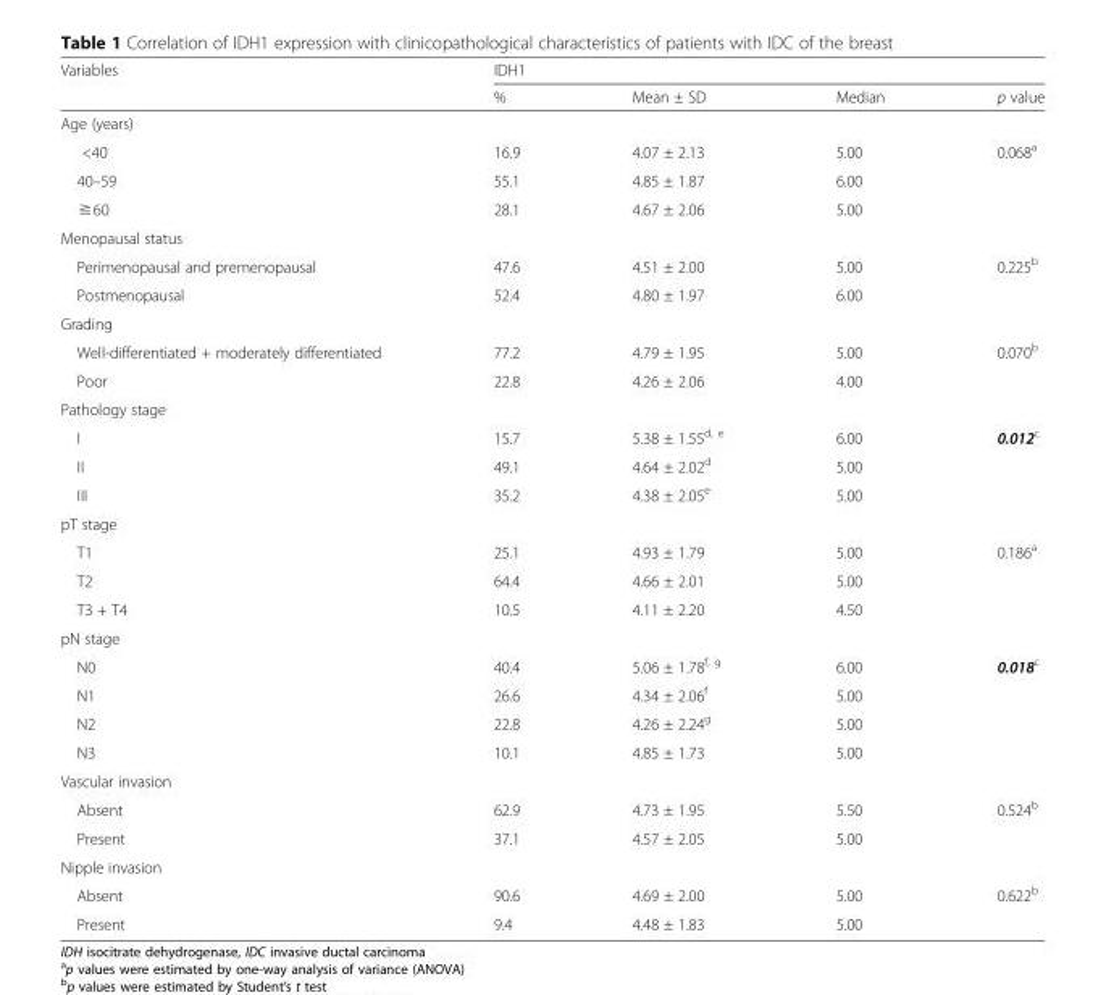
<table><thead><tr><td rowspan="2">Variables</td><td colspan="4">IDH1</td></tr><tr><td>%</td><td>Mean ± SD</td><td>Median</td><td>p value</td></tr></thead><tbody><tr><td colspan="5">Age (years)</td></tr><tr><td>&lt;40</td><td>16.9</td><td>4.07 ± 2.13</td><td>5.00</td><td>0.068<sup>a</sup></td></tr><tr><td>40–59</td><td>55.1</td><td>4.85 ± 1.87</td><td>6.00</td><td></td></tr><tr><td>≧60</td><td>28.1</td><td>4.67 ± 2.06</td><td>5.00</td><td></td></tr><tr><td colspan="5">Menopausal status</td></tr><tr><td>Perimenopausal and premenopausal</td><td>47.6</td><td>4.51 ± 2.00</td><td>5.00</td><td>0.225<sup>b</sup></td></tr><tr><td>Postmenopausal</td><td>52.4</td><td>4.80 ± 1.97</td><td>6.00</td><td></td></tr><tr><td colspan="5">Grading</td></tr><tr><td>Well-differentiated + moderately differentiated</td><td>77.2</td><td>4.79 ± 1.95</td><td>5.00</td><td>0.070<sup>b</sup></td></tr><tr><td>Poor</td><td>22.8</td><td>4.26 ± 2.06</td><td>4.00</td><td></td></tr><tr><td colspan="5">Pathology stage</td></tr><tr><td>I</td><td>15.7</td><td>5.38 ± 1.55<sup>d, e</sup></td><td>6.00</td><td>0.012<sup>c</sup></td></tr><tr><td>II</td><td>49.1</td><td>4.64 ± 2.02<sup>d</sup></td><td>5.00</td><td></td></tr><tr><td>III</td><td>35.2</td><td>4.38 ± 2.05<sup>e</sup></td><td>5.00</td><td></td></tr><tr><td colspan="5">pT stage</td></tr><tr><td>T1</td><td>25.1</td><td>4.93 ± 1.79</td><td>5.00</td><td>0.186<sup>a</sup></td></tr><tr><td>T2</td><td>64.4</td><td>4.66 ± 2.01</td><td>5.00</td><td></td></tr><tr><td>T3 + T4</td><td>10.5</td><td>4.11 ± 2.20</td><td>4.50</td><td></td></tr><tr><td colspan="5">pN stage</td></tr><tr><td>N0</td><td>40.4</td><td>5.06 ± 1.78<sup>f, g</sup></td><td>6.00</td><td>0.018<sup>c</sup></td></tr><tr><td>N1</td><td>26.6</td><td>4.34 ± 2.06<sup>f</sup></td><td>5.00</td><td></td></tr><tr><td>N2</td><td>22.8</td><td>4.26 ± 2.24<sup>g</sup></td><td>5.00</td><td></td></tr><tr><td>N3</td><td>10.1</td><td>4.85 ± 1.73</td><td>5.00</td><td></td></tr><tr><td colspan="5">Vascular invasion</td></tr><tr><td>Absent</td><td>62.9</td><td>4.73 ± 1.95</td><td>5.50</td><td>0.524<sup>b</sup></td></tr><tr><td>Present</td><td>37.1</td><td>4.57 ± 2.05</td><td>5.00</td><td></td></tr><tr><td colspan="5">Nipple invasion</td></tr><tr><td>Absent</td><td>90.6</td><td>4.69 ± 2.00</td><td>5.00</td><td>0.622<sup>b</sup></td></tr><tr><td>Present</td><td>9.4</td><td>4.48 ± 1.83</td><td>5.00</td><td></td></tr></tbody></table>